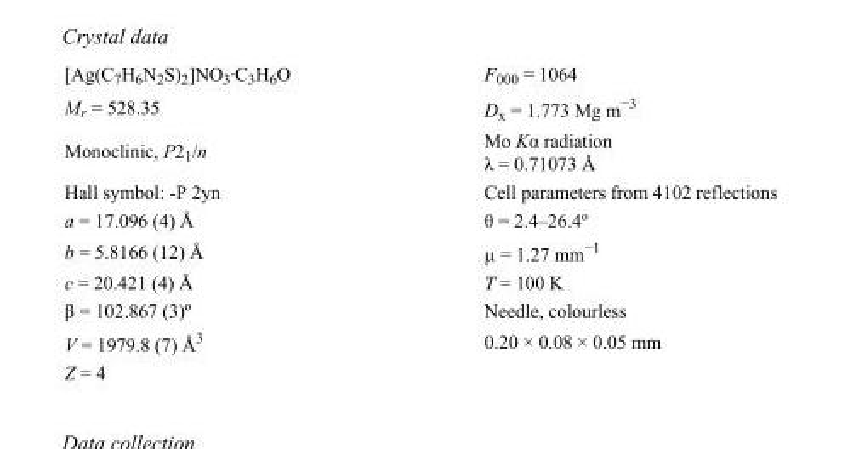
<table><tbody><tr><td>[Ag(C<sub>7</sub>H<sub>6</sub>N<sub>2</sub>S)<sub>2</sub>]NO<sub>3</sub>·C<sub>3</sub>H<sub>6</sub>O</td><td>F000 = 1064</td></tr><tr><td>M<sub>r</sub> = 528.35</td><td>D<sub>x</sub> = 1.773 Mg m<sup>−3</sup></td></tr><tr><td>Monoclinic, P2<sub>1</sub>/n</td><td>Mo Kα radiation λ = 0.71073 Å</td></tr><tr><td>Hall symbol: -P 2yn</td><td>Cell parameters from 4102 reflections</td></tr><tr><td>a = 17.096 (4) Å</td><td>θ = 2.4–26.4º</td></tr><tr><td>b = 5.8166 (12) Å</td><td>µ = 1.27 mm−1</td></tr><tr><td>c = 20.421 (4) Å</td><td>T = 100 K</td></tr><tr><td>β = 102.867 (3)º</td><td>Needle, colourless</td></tr><tr><td>V = 1979.8 (7) Å<sup>3</sup></td><td>0.20 × 0.08 × 0.05 mm</td></tr><tr><td>Z = 4</td><td></td></tr></tbody></table>